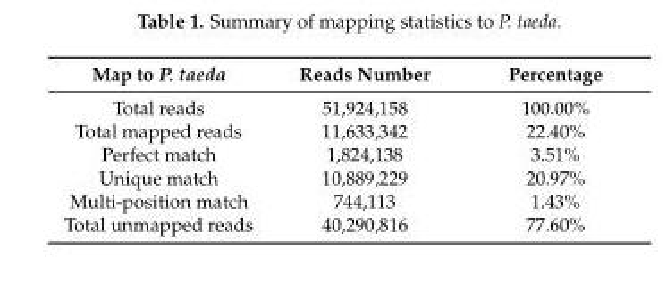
<table><thead><tr><td>Map to P. taeda</td><td>Reads Number</td><td>Percentage</td></tr></thead><tbody><tr><td>Total reads</td><td>51,924,158</td><td>100.00%</td></tr><tr><td>Total mapped reads</td><td>11,633,342</td><td>22.40%</td></tr><tr><td>Perfect match</td><td>1,824,138</td><td>3.51%</td></tr><tr><td>Unique match</td><td>10,889,229</td><td>20.97%</td></tr><tr><td>Multi-position match</td><td>744,113</td><td>1.43%</td></tr><tr><td>Total unmapped reads</td><td>40,290,816</td><td>77.60%</td></tr></tbody></table>